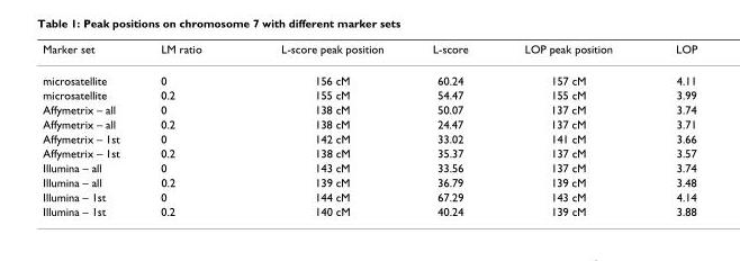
<table><thead><tr><td>Marker set</td><td>LM ratio</td><td>L-score peak position</td><td>L-score</td><td>LOP peak position</td><td>LOP</td></tr></thead><tbody><tr><td>microsatellite</td><td>0</td><td>156 cM</td><td>60.24</td><td>157 cM</td><td>4.11</td></tr><tr><td>microsatellite</td><td>0.2</td><td>155 cM</td><td>54.47</td><td>155 cM</td><td>3.99</td></tr><tr><td>Affymetrix – all</td><td>0</td><td>138 cM</td><td>50.07</td><td>137 cM</td><td>3.74</td></tr><tr><td>Affymetrix – all</td><td>0.2</td><td>138 cM</td><td>24.47</td><td>137 cM</td><td>3.71</td></tr><tr><td>Affymetrix – 1st</td><td>0</td><td>142 cM</td><td>33.02</td><td>141 cM</td><td>3.66</td></tr><tr><td>Affymetrix – 1st</td><td>0.2</td><td>138 cM</td><td>35.37</td><td>137 cM</td><td>3.57</td></tr><tr><td>Illumina – all</td><td>0</td><td>143 cM</td><td>33.56</td><td>137 cM</td><td>3.74</td></tr><tr><td>Illumina – all</td><td>0.2</td><td>139 cM</td><td>36.79</td><td>139 cM</td><td>3.48</td></tr><tr><td>Illumina – 1st</td><td>0</td><td>144 cM</td><td>67.29</td><td>143 cM</td><td>4.14</td></tr><tr><td>Illumina – 1st</td><td>0.2</td><td>140 cM</td><td>40.24</td><td>139 cM</td><td>3.88</td></tr></tbody></table>